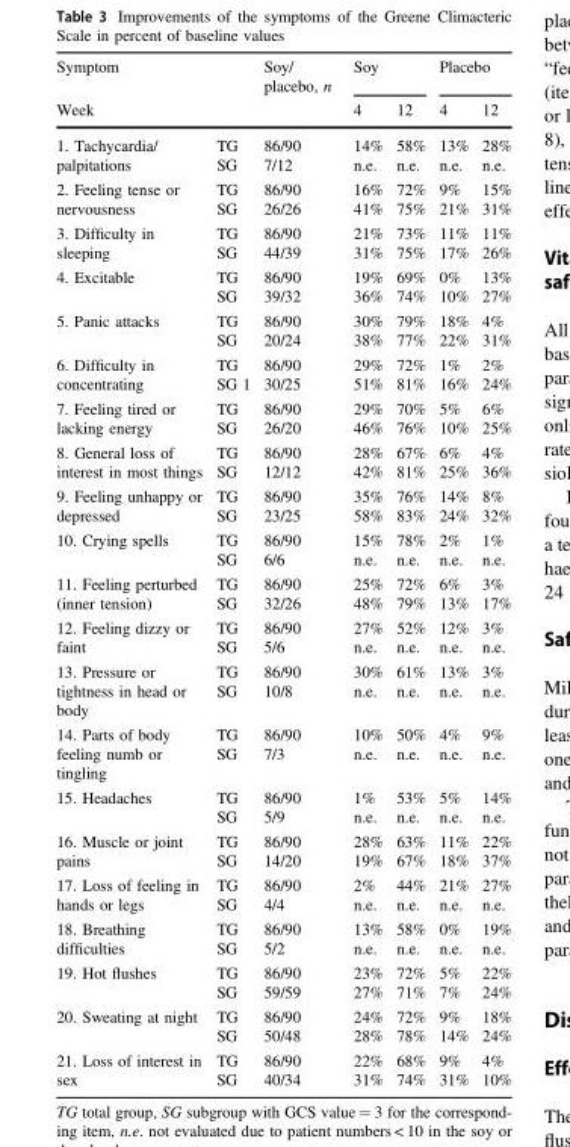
<table><thead><tr><td rowspan="2">Symptom Week</td><td rowspan="2"></td><td rowspan="2">Soy/ placebo, n</td><td colspan="2">Soy</td><td colspan="2">Placebo</td></tr><tr><td>4</td><td>12</td><td>4</td><td>12</td></tr></thead><tbody><tr><td>1. Tachycardia/ palpitations</td><td>TG SG</td><td>86/90 7/12</td><td>14% n.e.</td><td>58% n.e.</td><td>13% n.e.</td><td>28% n.e.</td></tr><tr><td>2. Feeling tense or nervousness</td><td>TG SG</td><td>86/90 26/26</td><td>16% 41%</td><td>72% 75%</td><td>9% 21%</td><td>15% 31%</td></tr><tr><td>3. Difficulty in sleeping</td><td>TG SG</td><td>86/90 44/39</td><td>21% 31%</td><td>73% 75%</td><td>11% 17%</td><td>11% 26%</td></tr><tr><td>4. Excitable</td><td>TG SG</td><td>86/90 39/32</td><td>19% 36%</td><td>69% 74%</td><td>0% 10%</td><td>13% 27%</td></tr><tr><td>5. Panic attacks</td><td>TG SG</td><td>86/90 20/24</td><td>30% 38%</td><td>79% 77%</td><td>18% 22%</td><td>4% 31%</td></tr><tr><td>6. Difficulty in concentrating</td><td>TG SG 1</td><td>86/90 30/25</td><td>29% 51%</td><td>72% 81%</td><td>1% 16%</td><td>2% 24%</td></tr><tr><td>7. Feeling tired or lacking energy</td><td>TG SG</td><td>86/90 26/20</td><td>29% 46%</td><td>70% 76%</td><td>5% 10%</td><td>6% 25%</td></tr><tr><td>8. General loss of interest in most things</td><td>TG SG</td><td>86/90 12/12</td><td>28% 42%</td><td>67% 81%</td><td>6% 25%</td><td>4% 36%</td></tr><tr><td>9. Feeling unhappy or depressed</td><td>TG SG</td><td>86/90 23/25</td><td>35% 58%</td><td>76% 83%</td><td>14% 24%</td><td>8% 32%</td></tr><tr><td>10. Crying spells</td><td>TG SG</td><td>86/90 6/6</td><td>15% n.e.</td><td>78% n.e.</td><td>2% n.e.</td><td>1% n.e.</td></tr><tr><td>11. Feeling perturbed (inner tension)</td><td>TG SG</td><td>86/90 32/26</td><td>25% 48%</td><td>72% 79%</td><td>6% 13%</td><td>3% 17%</td></tr><tr><td>12. Feeling dizzy or faint</td><td>TG SG</td><td>86/90 5/6</td><td>27% n.e.</td><td>52% n.e.</td><td>12% n.e.</td><td>3% n.e.</td></tr><tr><td>13. Pressure or tightness in head or body</td><td>TG SG</td><td>86/90 10/8</td><td>30% n.e.</td><td>61% n.e.</td><td>13% n.e.</td><td>3% n.e.</td></tr><tr><td>14. Parts of body feeling numb or tingling</td><td>TG SG</td><td>86/90 7/3</td><td>10% n.e.</td><td>50% n.e.</td><td>4% n.e.</td><td>9% n.e.</td></tr><tr><td>15. Headaches</td><td>TG SG</td><td>86/90 5/9</td><td>1% n.e.</td><td>53% n.e.</td><td>5% n.e.</td><td>14% n.e.</td></tr><tr><td>16. Muscle or joint pains</td><td>TG SG</td><td>86/90 14/20</td><td>28% 19%</td><td>63% 67%</td><td>11% 18%</td><td>22% 37%</td></tr><tr><td>17. Loss of feeling in hands or legs</td><td>TG SG</td><td>86/90 4/4</td><td>2% n.e.</td><td>44% n.e.</td><td>21% n.e.</td><td>27% n.e.</td></tr><tr><td>18. Breathing difficulties</td><td>TG SG</td><td>86/90 5/2</td><td>13% n.e.</td><td>58% n.e.</td><td>0% n.e.</td><td>19% n.e.</td></tr><tr><td>19. Hot flushes</td><td>TG SG</td><td>86/90 59/59</td><td>23% 27%</td><td>72% 71%</td><td>5% 7%</td><td>22% 24%</td></tr><tr><td>20. Sweating at night</td><td>TG SG</td><td>86/90 50/48</td><td>24% 28%</td><td>72% 78%</td><td>9% 14%</td><td>18% 24%</td></tr><tr><td>21. Loss of interest in sex</td><td>TG SG</td><td>86/90 40/34</td><td>22% 31%</td><td>68% 74%</td><td>9% 31%</td><td>4% 10%</td></tr></tbody></table>